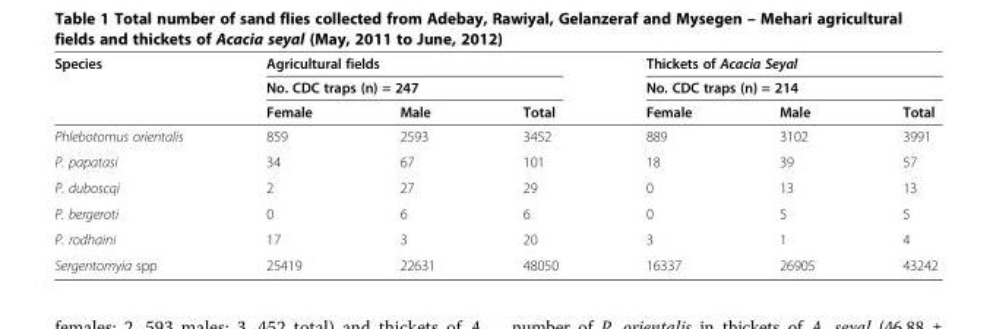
<table><thead><tr><td rowspan="3">Species</td><td rowspan="2" colspan="3">Agricultural fields No. CDC traps (n) = 247</td><td rowspan="2" colspan="3">Thickets of Acacia Seyal No. CDC traps (n) = 214</td></tr><tr></tr><tr><td>Female</td><td>Male</td><td>Total</td><td>Female</td><td>Male</td><td>Total</td></tr></thead><tbody><tr><td>Phlebotomus orientalis</td><td>859</td><td>2593</td><td>3452</td><td>889</td><td>3102</td><td>3991</td></tr><tr><td>P. papatasi</td><td>34</td><td>67</td><td>101</td><td>18</td><td>39</td><td>57</td></tr><tr><td>P. duboscqi</td><td>2</td><td>27</td><td>29</td><td>0</td><td>13</td><td>13</td></tr><tr><td>P. bergeroti</td><td>0</td><td>6</td><td>6</td><td>0</td><td>5</td><td>5</td></tr><tr><td>P. rodhaini</td><td>17</td><td>3</td><td>20</td><td>3</td><td>1</td><td>4</td></tr><tr><td>Sergentomyia spp</td><td>25419</td><td>22631</td><td>48050</td><td>16337</td><td>26905</td><td>43242</td></tr></tbody></table>